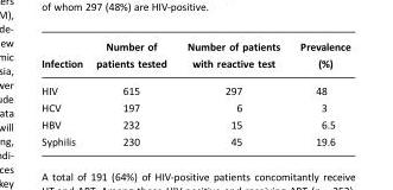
<table><thead><tr><td>Infection</td><td>Number of patients tested</td><td>Number of patients with reactive test</td><td>Prevalence (%)</td></tr></thead><tbody><tr><td>HIV</td><td>615</td><td>297</td><td>48</td></tr><tr><td>HCV</td><td>197</td><td>6</td><td>3</td></tr><tr><td>HBV</td><td>232</td><td>15</td><td>6.5</td></tr><tr><td>Syphilis</td><td>230</td><td>45</td><td>19.6</td></tr></tbody></table>